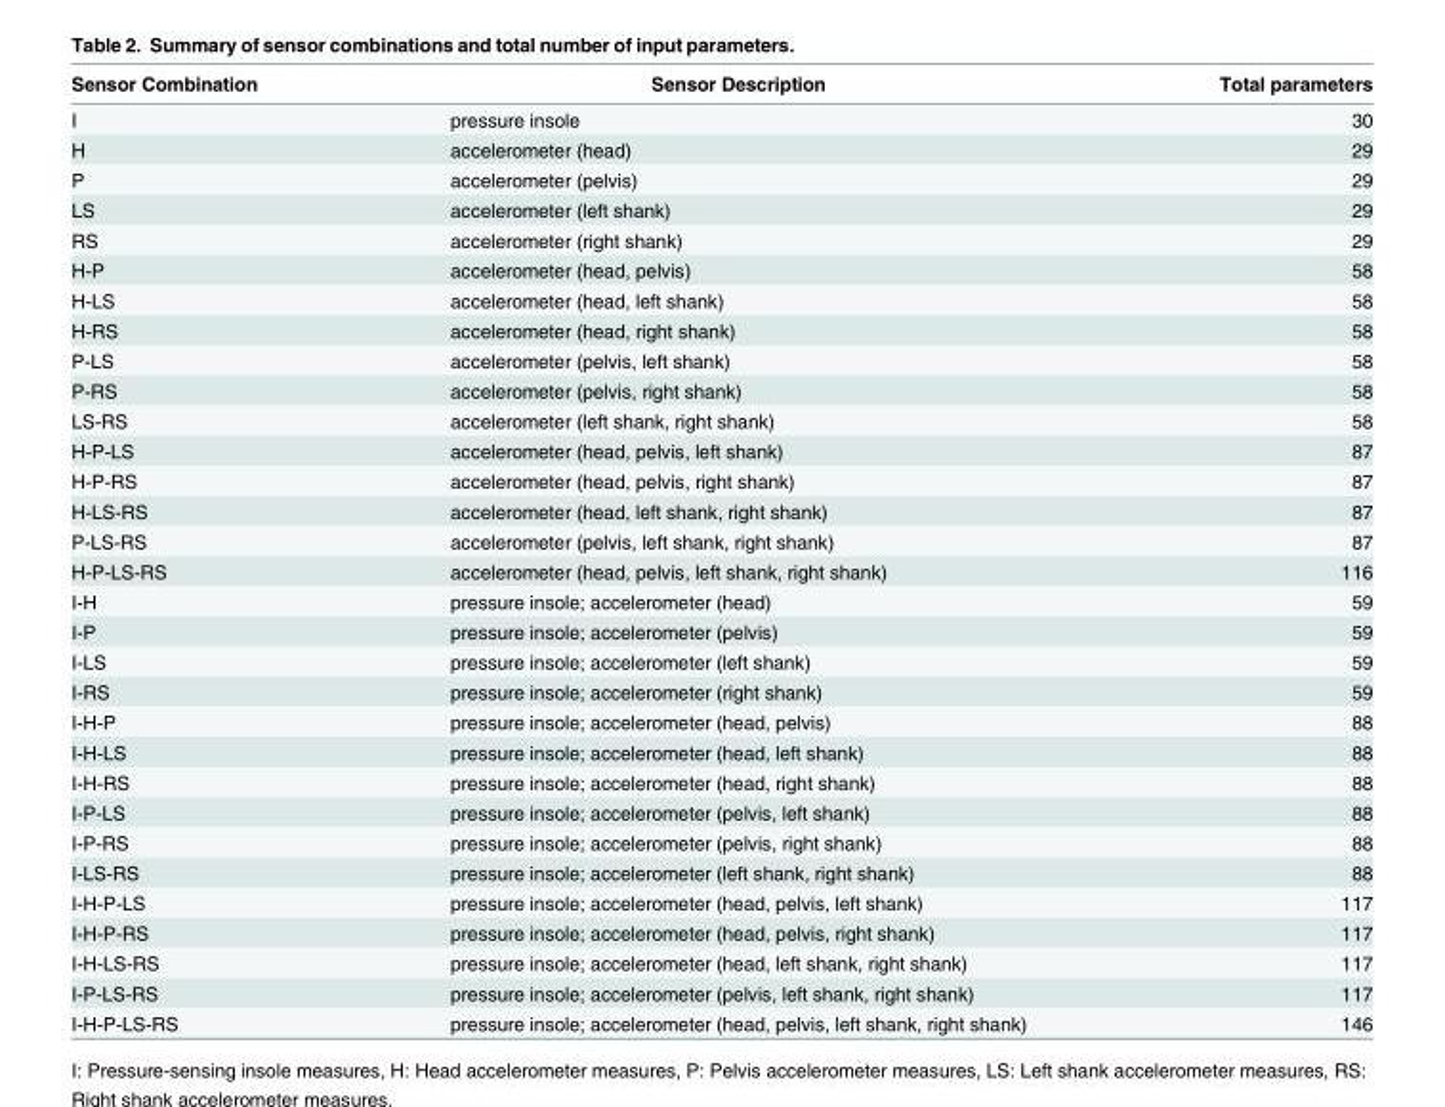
<table><thead><tr><td>Sensor Combination</td><td>Sensor Description</td><td>Total parameters</td></tr></thead><tbody><tr><td>I</td><td>pressure insole</td><td>30</td></tr><tr><td>H</td><td>accelerometer (head)</td><td>29</td></tr><tr><td>P</td><td>accelerometer (pelvis)</td><td>29</td></tr><tr><td>LS</td><td>accelerometer (left shank)</td><td>29</td></tr><tr><td>RS</td><td>accelerometer (right shank)</td><td>29</td></tr><tr><td>H-P</td><td>accelerometer (head, pelvis)</td><td>58</td></tr><tr><td>H-LS</td><td>accelerometer (head, left shank)</td><td>58</td></tr><tr><td>H-RS</td><td>accelerometer (head, right shank)</td><td>58</td></tr><tr><td>P-LS</td><td>accelerometer (pelvis, left shank)</td><td>58</td></tr><tr><td>P-RS</td><td>accelerometer (pelvis, right shank)</td><td>58</td></tr><tr><td>LS-RS</td><td>accelerometer (left shank, right shank)</td><td>58</td></tr><tr><td>H-P-LS</td><td>accelerometer (head, pelvis, left shank)</td><td>87</td></tr><tr><td>H-P-RS</td><td>accelerometer (head, pelvis, right shank)</td><td>87</td></tr><tr><td>H-LS-RS</td><td>accelerometer (head, left shank, right shank)</td><td>87</td></tr><tr><td>P-LS-RS</td><td>accelerometer (pelvis, left shank, right shank)</td><td>87</td></tr><tr><td>H-P-LS-RS</td><td>accelerometer (head, pelvis, left shank, right shank)</td><td>116</td></tr><tr><td>I-H</td><td>pressure insole; accelerometer (head)</td><td>59</td></tr><tr><td>I-P</td><td>pressure insole; accelerometer (pelvis)</td><td>59</td></tr><tr><td>I-LS</td><td>pressure insole; accelerometer (left shank)</td><td>59</td></tr><tr><td>I-RS</td><td>pressure insole; accelerometer (right shank)</td><td>59</td></tr><tr><td>I-H-P</td><td>pressure insole; accelerometer (head, pelvis)</td><td>88</td></tr><tr><td>I-H-LS</td><td>pressure insole; accelerometer (head, left shank)</td><td>88</td></tr><tr><td>I-H-RS</td><td>pressure insole; accelerometer (head, right shank)</td><td>88</td></tr><tr><td>I-P-LS</td><td>pressure insole; accelerometer (pelvis, left shank)</td><td>88</td></tr><tr><td>I-P-RS</td><td>pressure insole; accelerometer (pelvis, right shank)</td><td>88</td></tr><tr><td>I-LS-RS</td><td>pressure insole; accelerometer (left shank, right shank)</td><td>88</td></tr><tr><td>I-H-P-LS</td><td>pressure insole; accelerometer (head, pelvis, left shank)</td><td>117</td></tr><tr><td>I-H-P-RS</td><td>pressure insole; accelerometer (head, pelvis, right shank)</td><td>117</td></tr><tr><td>I-H-LS-RS</td><td>pressure insole; accelerometer (head, left shank, right shank)</td><td>117</td></tr><tr><td>I-P-LS-RS</td><td>pressure insole; accelerometer (pelvis, left shank, right shank)</td><td>117</td></tr><tr><td>I-H-P-LS-RS</td><td>pressure insole; accelerometer (head, pelvis, left shank, right shank)</td><td>146</td></tr></tbody></table>